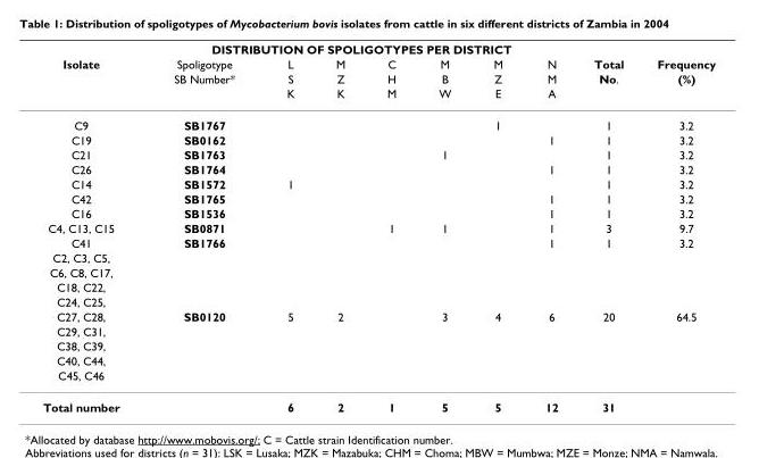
<table><thead><tr><td rowspan="4">Isolate</td><td colspan="7">DISTRIBUTION OF SPOLIGOTYPES PER DISTRICT</td><td rowspan="4">Total No.</td><td rowspan="4">Frequency (%)</td></tr><tr><td rowspan="3">Spoligotype SB Number*</td><td rowspan="3">L S K</td><td rowspan="3">M Z K</td><td rowspan="3">C H M</td><td rowspan="3">M B W</td><td rowspan="3">M Z E</td><td rowspan="3">N M A</td></tr><tr></tr><tr></tr></thead><tbody><tr><td>C9</td><td>SB1767</td><td></td><td></td><td></td><td></td><td>1</td><td></td><td>1</td><td>3.2</td></tr><tr><td>C19</td><td>SB0162</td><td></td><td></td><td></td><td></td><td></td><td>1</td><td>1</td><td>3.2</td></tr><tr><td>C21</td><td>SB1763</td><td></td><td></td><td></td><td>1</td><td></td><td></td><td>1</td><td>3.2</td></tr><tr><td>C26</td><td>SB1764</td><td></td><td></td><td></td><td></td><td></td><td>1</td><td>1</td><td>3.2</td></tr><tr><td>C14</td><td>SB1572</td><td>1</td><td></td><td></td><td></td><td></td><td></td><td>1</td><td>3.2</td></tr><tr><td>C42</td><td>SB1765</td><td></td><td></td><td></td><td></td><td></td><td>1</td><td>1</td><td>3.2</td></tr><tr><td>C16</td><td>SB1536</td><td></td><td></td><td></td><td></td><td></td><td>1</td><td>1</td><td>3.2</td></tr><tr><td>C4, C13, C15</td><td>SB0871</td><td></td><td></td><td>1</td><td>1</td><td></td><td>1</td><td>3</td><td>9.7</td></tr><tr><td>C41</td><td>SB1766</td><td></td><td></td><td></td><td></td><td></td><td>1</td><td>1</td><td>3.2</td></tr><tr><td colspan="10">C2, C3, C5,</td></tr><tr><td colspan="10">C6, C8, C17,</td></tr><tr><td colspan="10">C18, C22,</td></tr><tr><td colspan="10">C24, C25,</td></tr><tr><td>C27, C28,</td><td>SB0120</td><td>5</td><td>2</td><td></td><td>3</td><td>4</td><td>6</td><td>20</td><td>64.5</td></tr><tr><td colspan="10">C29, C31,</td></tr><tr><td colspan="10">C38, C39,</td></tr><tr><td colspan="10">C40, C44,</td></tr><tr><td colspan="10">C45, C46</td></tr><tr><td>Total number</td><td></td><td>6</td><td>2</td><td>1</td><td>5</td><td>5</td><td>12</td><td>31</td><td></td></tr></tbody></table>